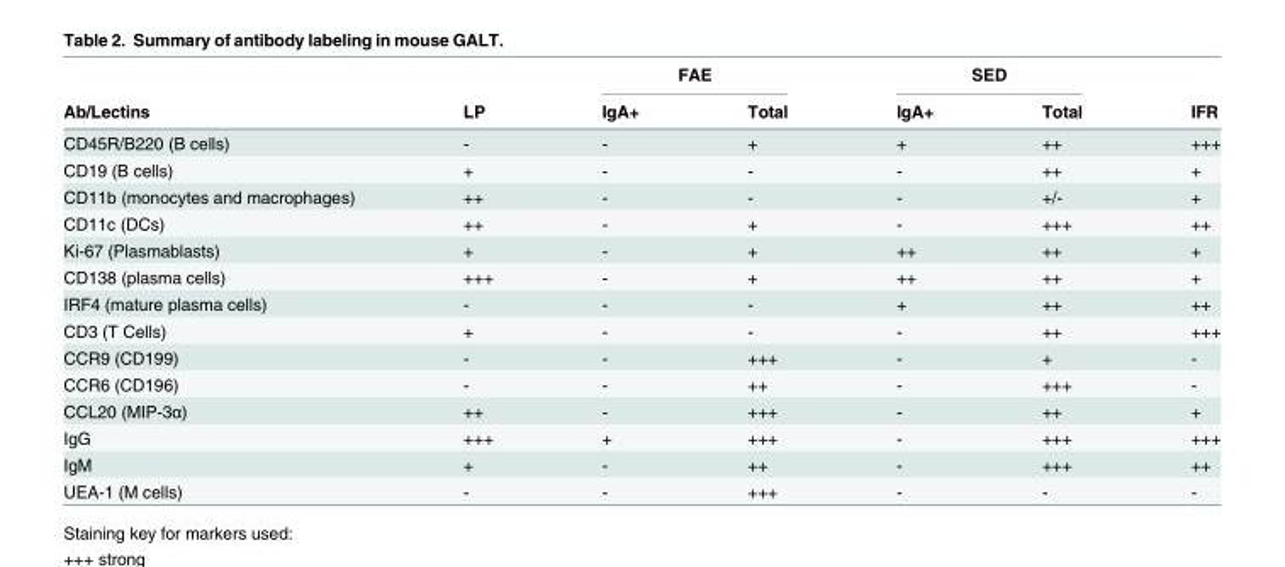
<table><thead><tr><td rowspan="2">Ab/Lectins</td><td rowspan="2">LP</td><td colspan="2">FAE</td><td colspan="2">SED</td><td rowspan="2">IFR</td></tr><tr><td>IgA+</td><td>Total</td><td>IgA+</td><td>Total</td></tr></thead><tbody><tr><td>CD45R/B220 (B cells)</td><td>-</td><td>-</td><td>+</td><td>+</td><td>++</td><td>+++</td></tr><tr><td>CD19 (B cells)</td><td>+</td><td>-</td><td>-</td><td>-</td><td>++</td><td>+</td></tr><tr><td>CD11b (monocytes and macrophages)</td><td>++</td><td>-</td><td>-</td><td>-</td><td>+/-</td><td>+</td></tr><tr><td>CD11c (DCs)</td><td>++</td><td>-</td><td>+</td><td>-</td><td>+++</td><td>++</td></tr><tr><td>Ki-67 (Plasmablasts)</td><td>+</td><td>-</td><td>+</td><td>++</td><td>++</td><td>+</td></tr><tr><td>CD138 (plasma cells)</td><td>+++</td><td>-</td><td>+</td><td>++</td><td>++</td><td>+</td></tr><tr><td>IRF4 (mature plasma cells)</td><td>-</td><td>-</td><td>-</td><td>+</td><td>++</td><td>++</td></tr><tr><td>CD3 (T Cells)</td><td>+</td><td>-</td><td>-</td><td>-</td><td>++</td><td>+++</td></tr><tr><td>CCR9 (CD199)</td><td>-</td><td>-</td><td>+++</td><td>-</td><td>+</td><td>-</td></tr><tr><td>CCR6 (CD196)</td><td>-</td><td>-</td><td>++</td><td>-</td><td>+++</td><td>-</td></tr><tr><td>CCL20 (MIP-3α)</td><td>++</td><td>-</td><td>+++</td><td>-</td><td>++</td><td>+</td></tr><tr><td>IgG</td><td>+++</td><td>+</td><td>+++</td><td>-</td><td>+++</td><td>+++</td></tr><tr><td>IgM</td><td>+</td><td>-</td><td>++</td><td>-</td><td>+++</td><td>++</td></tr><tr><td>UEA-1 (M cells)</td><td>-</td><td>-</td><td>+++</td><td>-</td><td>-</td><td>-</td></tr></tbody></table>